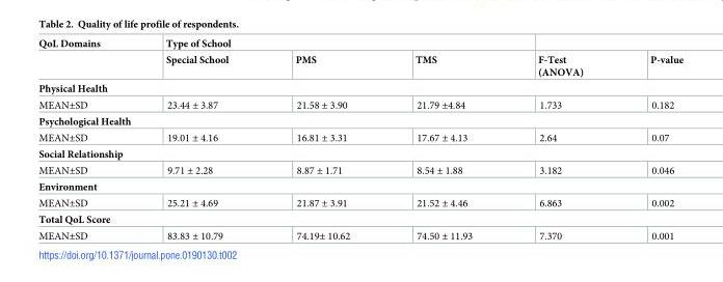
<table><thead><tr><td rowspan="2">QoL Domains</td><td colspan="3">Type of School</td><td rowspan="2">F-Test (ANOVA)</td><td rowspan="2">P-value</td></tr><tr><td>Special School</td><td>PMS</td><td>TMS</td></tr></thead><tbody><tr><td colspan="6">Physical Health</td></tr><tr><td>MEAN±SD</td><td>23.44 ± 3.87</td><td>21.58 ± 3.90</td><td>21.79 ±4.84</td><td>1.733</td><td>0.182</td></tr><tr><td colspan="6">Psychological Health</td></tr><tr><td>MEAN±SD</td><td>19.01 ± 4.16</td><td>16.81 ± 3.31</td><td>17.67 ± 4.13</td><td>2.64</td><td>0.07</td></tr><tr><td colspan="6">Social Relationship</td></tr><tr><td>MEAN±SD</td><td>9.71 ± 2.28</td><td>8.87 ± 1.71</td><td>8.54 ± 1.88</td><td>3.182</td><td>0.046</td></tr><tr><td colspan="6">Environment</td></tr><tr><td>MEAN±SD</td><td>25.21 ± 4.69</td><td>21.87 ± 3.91</td><td>21.52 ± 4.46</td><td>6.863</td><td>0.002</td></tr><tr><td colspan="6">Total QoL Score</td></tr><tr><td>MEAN±SD</td><td>83.83 ± 10.79</td><td>74.19± 10.62</td><td>74.50 ± 11.93</td><td>7.370</td><td>0.001</td></tr></tbody></table>